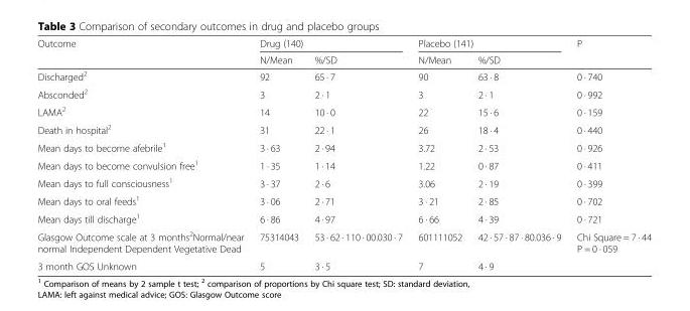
<table><thead><tr><td rowspan="2">Outcome</td><td colspan="2">Drug (140)</td><td colspan="2">Placebo (141)</td><td rowspan="2">P</td></tr><tr><td>N/Mean</td><td>%/SD</td><td>N/Mean</td><td>%/SD</td></tr></thead><tbody><tr><td>Discharged<sup>2</sup></td><td>92</td><td>65 · 7</td><td>90</td><td>63 · 8</td><td>0 · 740</td></tr><tr><td>Absconded<sup>2</sup></td><td>3</td><td>2 · 1</td><td>3</td><td>2 · 1</td><td>0 · 992</td></tr><tr><td>LAMA<sup>2</sup></td><td>14</td><td>10 · 0</td><td>22</td><td>15 · 6</td><td>0 · 159</td></tr><tr><td>Death in hospital<sup>2</sup></td><td>31</td><td>22 · 1</td><td>26</td><td>18 · 4</td><td>0 · 440</td></tr><tr><td>Mean days to become afebrile<sup>1</sup></td><td>3 · 63</td><td>2 · 94</td><td>3.72</td><td>2 · 53</td><td>0 · 926</td></tr><tr><td>Mean days to become convulsion free<sup>1</sup></td><td>1 · 35</td><td>1 · 14</td><td>1.22</td><td>0 · 87</td><td>0 · 411</td></tr><tr><td>Mean days to full consciousness<sup>1</sup></td><td>3 · 37</td><td>2 · 6</td><td>3.06</td><td>2 · 19</td><td>0 · 399</td></tr><tr><td>Mean days to oral feeds<sup>1</sup></td><td>3 · 06</td><td>2 · 71</td><td>3 · 21</td><td>2 · 85</td><td>0 · 702</td></tr><tr><td>Mean days till discharge<sup>1</sup></td><td>6 · 86</td><td>4 · 97</td><td>6 · 66</td><td>4 · 39</td><td>0 · 721</td></tr><tr><td>Glasgow Outcome scale at 3 months<sup>2</sup>Normal/near normal Independent Dependent Vegetative Dead</td><td>75314043</td><td>53 · 62 · 110 · 00.030 · 7</td><td>601111052</td><td>42 · 57 · 87 · 80.036 · 9</td><td>Chi Square = 7 · 44 P = 0 · 059</td></tr><tr><td>3 month GOS Unknown</td><td>5</td><td>3 · 5</td><td>7</td><td>4 · 9</td><td></td></tr></tbody></table>